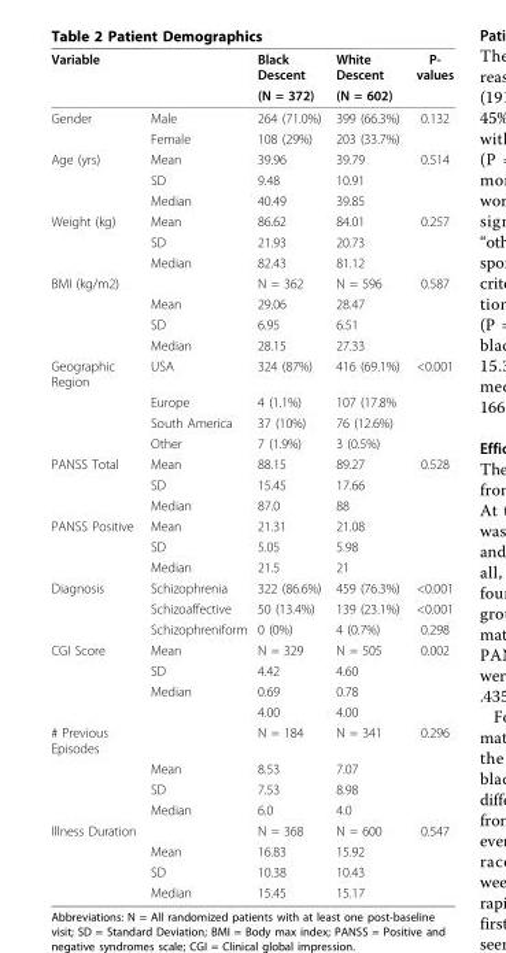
<table><thead><tr><td rowspan="2">Variable</td><td rowspan="2"></td><td rowspan="2">Black Descent (N = 372)</td><td rowspan="2">White Descent (N = 602)</td><td rowspan="2">P- values</td></tr><tr></tr></thead><tbody><tr><td rowspan="2">Gender</td><td>Male</td><td>264 (71.0%)</td><td>399 (66.3%)</td><td>0.132</td></tr><tr><td>Female</td><td>108 (29%)</td><td>203 (33.7%)</td><td></td></tr><tr><td rowspan="3">Age (yrs)</td><td>Mean</td><td>39.96</td><td>39.79</td><td>0.514</td></tr><tr><td>SD</td><td>9.48</td><td>10.91</td><td></td></tr><tr><td>Median</td><td>40.49</td><td>39.85</td><td></td></tr><tr><td rowspan="3">Weight (kg)</td><td>Mean</td><td>86.62</td><td>84.01</td><td>0.257</td></tr><tr><td>SD</td><td>21.93</td><td>20.73</td><td></td></tr><tr><td>Median</td><td>82.43</td><td>81.12</td><td></td></tr><tr><td rowspan="4">BMI (kg/m2)</td><td></td><td>N = 362</td><td>N = 596</td><td>0.587</td></tr><tr><td>Mean</td><td>29.06</td><td>28.47</td><td></td></tr><tr><td>SD</td><td>6.95</td><td>6.51</td><td></td></tr><tr><td>Median</td><td>28.15</td><td>27.33</td><td></td></tr><tr><td rowspan="4">Geographic Region</td><td>USA</td><td>324 (87%)</td><td>416 (69.1%)</td><td>&lt;0.001</td></tr><tr><td>Europe</td><td>4 (1.1%)</td><td>107 (17.8%</td><td></td></tr><tr><td>South America</td><td>37 (10%)</td><td>76 (12.6%)</td><td></td></tr><tr><td>Other</td><td>7 (1.9%)</td><td>3 (0.5%)</td><td></td></tr><tr><td rowspan="3">PANSS Total</td><td>Mean</td><td>88.15</td><td>89.27</td><td>0.528</td></tr><tr><td>SD</td><td>15.45</td><td>17.66</td><td></td></tr><tr><td>Median</td><td>87.0</td><td>88</td><td></td></tr><tr><td rowspan="3">PANSS Positive</td><td>Mean</td><td>21.31</td><td>21.08</td><td></td></tr><tr><td>SD</td><td>5.05</td><td>5.98</td><td></td></tr><tr><td>Median</td><td>21.5</td><td>21</td><td></td></tr><tr><td rowspan="3">Diagnosis</td><td>Schizophrenia</td><td>322 (86.6%)</td><td>459 (76.3%)</td><td>&lt;0.001</td></tr><tr><td>Schizoaffective</td><td>50 (13.4%)</td><td>139 (23.1%)</td><td>&lt;0.001</td></tr><tr><td>Schizophreniform</td><td>0 (0%)</td><td>4 (0.7%)</td><td>0.298</td></tr><tr><td rowspan="4">CGI Score</td><td>Mean</td><td>N = 329</td><td>N = 505</td><td>0.002</td></tr><tr><td>SD</td><td>4.42</td><td>4.60</td><td></td></tr><tr><td>Median</td><td>0.69</td><td>0.78</td><td></td></tr><tr><td></td><td>4.00</td><td>4.00</td><td></td></tr><tr><td rowspan="4"># Previous Episodes</td><td></td><td>N = 184</td><td>N = 341</td><td>0.296</td></tr><tr><td>Mean</td><td>8.53</td><td>7.07</td><td></td></tr><tr><td>SD</td><td>7.53</td><td>8.98</td><td></td></tr><tr><td>Median</td><td>6.0</td><td>4.0</td><td></td></tr><tr><td rowspan="4">Illness Duration</td><td></td><td>N = 368</td><td>N = 600</td><td>0.547</td></tr><tr><td>Mean</td><td>16.83</td><td>15.92</td><td></td></tr><tr><td>SD</td><td>10.38</td><td>10.43</td><td></td></tr><tr><td>Median</td><td>15.45</td><td>15.17</td><td></td></tr></tbody></table>